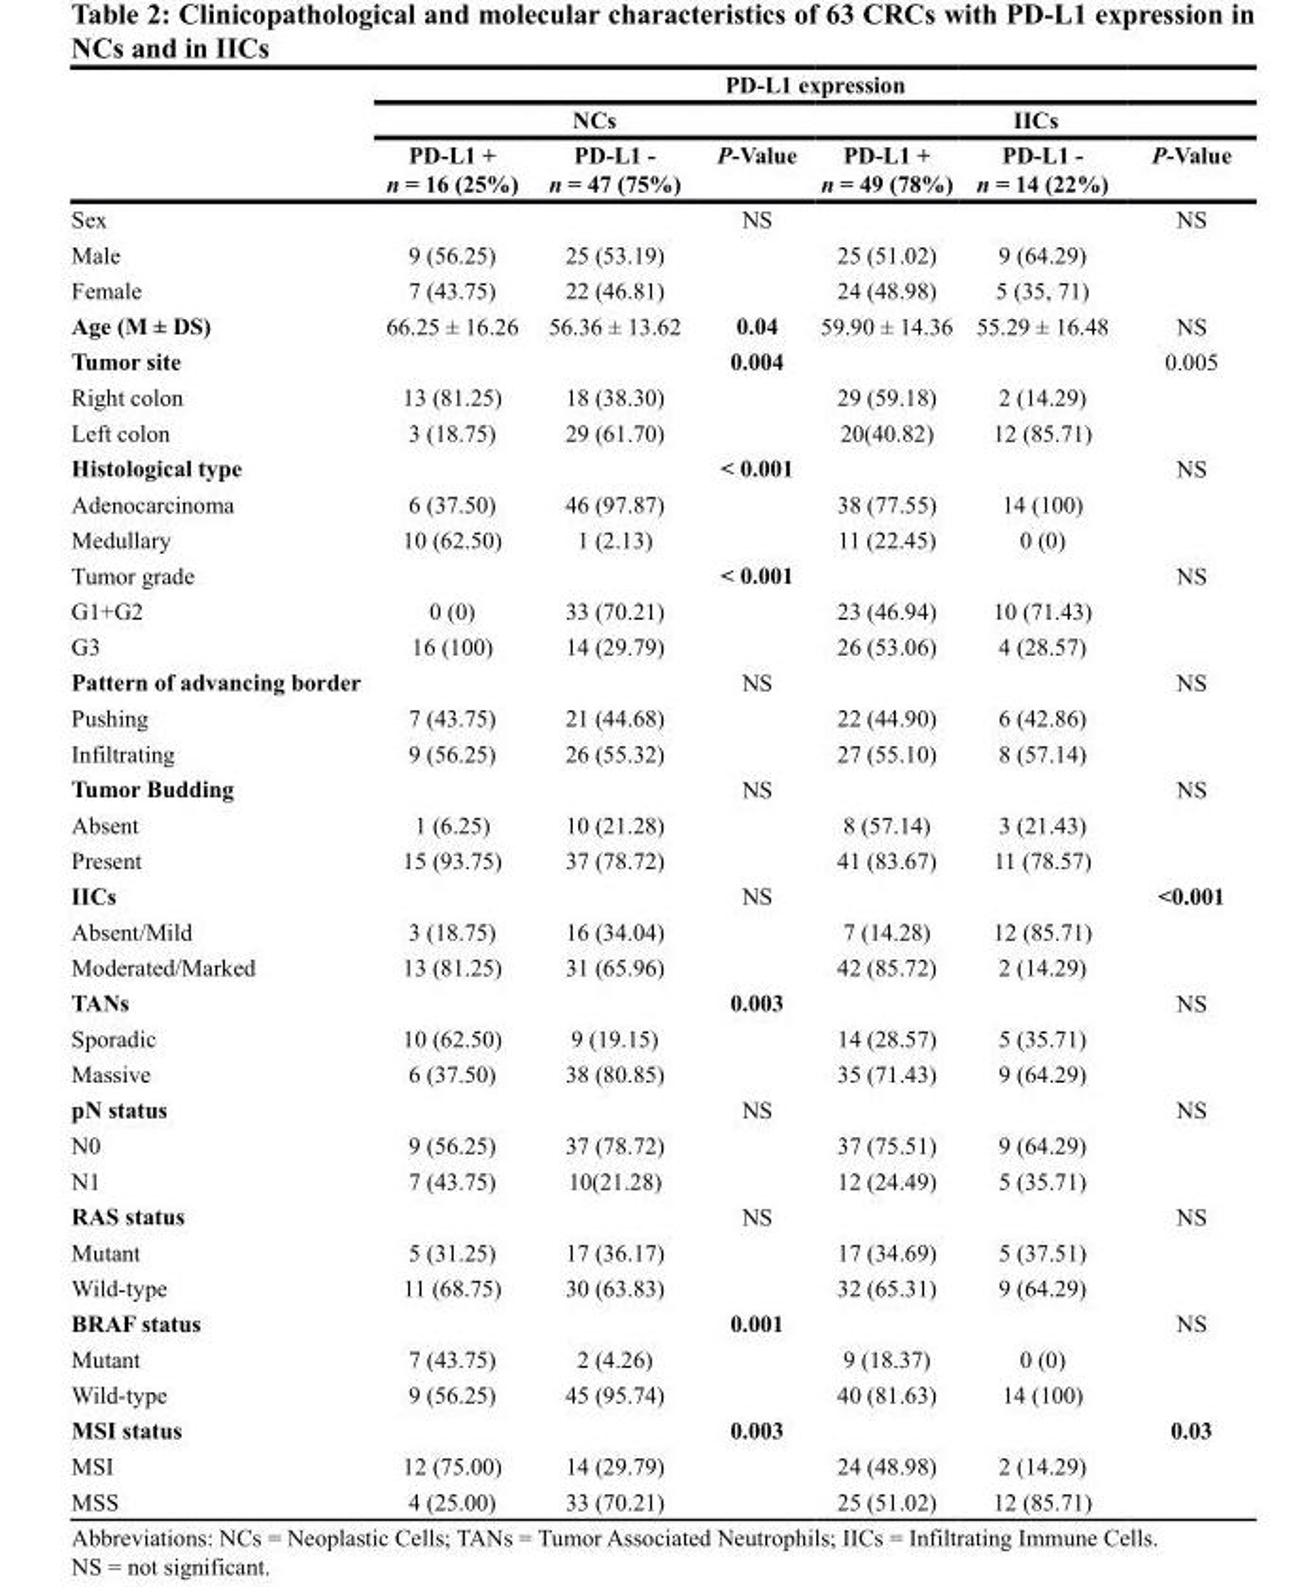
<table><thead><tr><td rowspan="3"></td><td colspan="6">PD-L1 expression</td></tr><tr><td colspan="3">NCs</td><td colspan="3">IICs</td></tr><tr><td>PD-L1 + n = 16 (25%)</td><td>PD-L1 - n = 47 (75%)</td><td>P-Value</td><td>PD-L1 + n = 49 (78%)</td><td>PD-L1 - n = 14 (22%)</td><td>P-Value</td></tr></thead><tbody><tr><td>Sex</td><td></td><td></td><td>NS</td><td></td><td></td><td>NS</td></tr><tr><td>Male</td><td>9 (56.25)</td><td>25 (53.19)</td><td></td><td>25 (51.02)</td><td>9 (64.29)</td><td></td></tr><tr><td>Female</td><td>7 (43.75)</td><td>22 (46.81)</td><td></td><td>24 (48.98)</td><td>5 (35, 71)</td><td></td></tr><tr><td>Age (M ± DS)</td><td>66.25 ± 16.26</td><td>56.36 ± 13.62</td><td>0.04</td><td>59.90 ± 14.36</td><td>55.29 ± 16.48</td><td>NS</td></tr><tr><td>Tumor site</td><td></td><td></td><td>0.004</td><td></td><td></td><td>0.005</td></tr><tr><td>Right colon</td><td>13 (81.25)</td><td>18 (38.30)</td><td></td><td>29 (59.18)</td><td>2 (14.29)</td><td></td></tr><tr><td>Left colon</td><td>3 (18.75)</td><td>29 (61.70)</td><td></td><td>20(40.82)</td><td>12 (85.71)</td><td></td></tr><tr><td>Histological type</td><td></td><td></td><td>&lt; 0.001</td><td></td><td></td><td>NS</td></tr><tr><td>Adenocarcinoma</td><td>6 (37.50)</td><td>46 (97.87)</td><td></td><td>38 (77.55)</td><td>14 (100)</td><td></td></tr><tr><td>Medullary</td><td>10 (62.50)</td><td>1 (2.13)</td><td></td><td>11 (22.45)</td><td>0 (0)</td><td></td></tr><tr><td>Tumor grade</td><td></td><td></td><td>&lt; 0.001</td><td></td><td></td><td>NS</td></tr><tr><td>G1+G2</td><td>0 (0)</td><td>33 (70.21)</td><td></td><td>23 (46.94)</td><td>10 (71.43)</td><td></td></tr><tr><td>G3</td><td>16 (100)</td><td>14 (29.79)</td><td></td><td>26 (53.06)</td><td>4 (28.57)</td><td></td></tr><tr><td>Pattern of advancing border</td><td></td><td></td><td>NS</td><td></td><td></td><td>NS</td></tr><tr><td>Pushing</td><td>7 (43.75)</td><td>21 (44.68)</td><td></td><td>22 (44.90)</td><td>6 (42.86)</td><td></td></tr><tr><td>Infiltrating</td><td>9 (56.25)</td><td>26 (55.32)</td><td></td><td>27 (55.10)</td><td>8 (57.14)</td><td></td></tr><tr><td>Tumor Budding</td><td></td><td></td><td>NS</td><td></td><td></td><td>NS</td></tr><tr><td>Absent</td><td>1 (6.25)</td><td>10 (21.28)</td><td></td><td>8 (57.14)</td><td>3 (21.43)</td><td></td></tr><tr><td>Present</td><td>15 (93.75)</td><td>37 (78.72)</td><td></td><td>41 (83.67)</td><td>11 (78.57)</td><td></td></tr><tr><td>IICs</td><td></td><td></td><td>NS</td><td></td><td></td><td>&lt;0.001</td></tr><tr><td>Absent/Mild</td><td>3 (18.75)</td><td>16 (34.04)</td><td></td><td>7 (14.28)</td><td>12 (85.71)</td><td></td></tr><tr><td>Moderated/Marked</td><td>13 (81.25)</td><td>31 (65.96)</td><td></td><td>42 (85.72)</td><td>2 (14.29)</td><td></td></tr><tr><td>TANs</td><td></td><td></td><td>0.003</td><td></td><td></td><td>NS</td></tr><tr><td>Sporadic</td><td>10 (62.50)</td><td>9 (19.15)</td><td></td><td>14 (28.57)</td><td>5 (35.71)</td><td></td></tr><tr><td>Massive</td><td>6 (37.50)</td><td>38 (80.85)</td><td></td><td>35 (71.43)</td><td>9 (64.29)</td><td></td></tr><tr><td>pN status</td><td></td><td></td><td>NS</td><td></td><td></td><td>NS</td></tr><tr><td>N0</td><td>9 (56.25)</td><td>37 (78.72)</td><td></td><td>37 (75.51)</td><td>9 (64.29)</td><td></td></tr><tr><td>N1</td><td>7 (43.75)</td><td>10(21.28)</td><td></td><td>12 (24.49)</td><td>5 (35.71)</td><td></td></tr><tr><td>RAS status</td><td></td><td></td><td>NS</td><td></td><td></td><td>NS</td></tr><tr><td>Mutant</td><td>5 (31.25)</td><td>17 (36.17)</td><td></td><td>17 (34.69)</td><td>5 (37.51)</td><td></td></tr><tr><td>Wild-type</td><td>11 (68.75)</td><td>30 (63.83)</td><td></td><td>32 (65.31)</td><td>9 (64.29)</td><td></td></tr><tr><td>BRAF status</td><td></td><td></td><td>0.001</td><td></td><td></td><td>NS</td></tr><tr><td>Mutant</td><td>7 (43.75)</td><td>2 (4.26)</td><td></td><td>9 (18.37)</td><td>0 (0)</td><td></td></tr><tr><td>Wild-type</td><td>9 (56.25)</td><td>45 (95.74)</td><td></td><td>40 (81.63)</td><td>14 (100)</td><td></td></tr><tr><td>MSI status</td><td></td><td></td><td>0.003</td><td></td><td></td><td>0.03</td></tr><tr><td>MSI</td><td>12 (75.00)</td><td>14 (29.79)</td><td></td><td>24 (48.98)</td><td>2 (14.29)</td><td></td></tr><tr><td>MSS</td><td>4 (25.00)</td><td>33 (70.21)</td><td></td><td>25 (51.02)</td><td>12 (85.71)</td><td></td></tr></tbody></table>